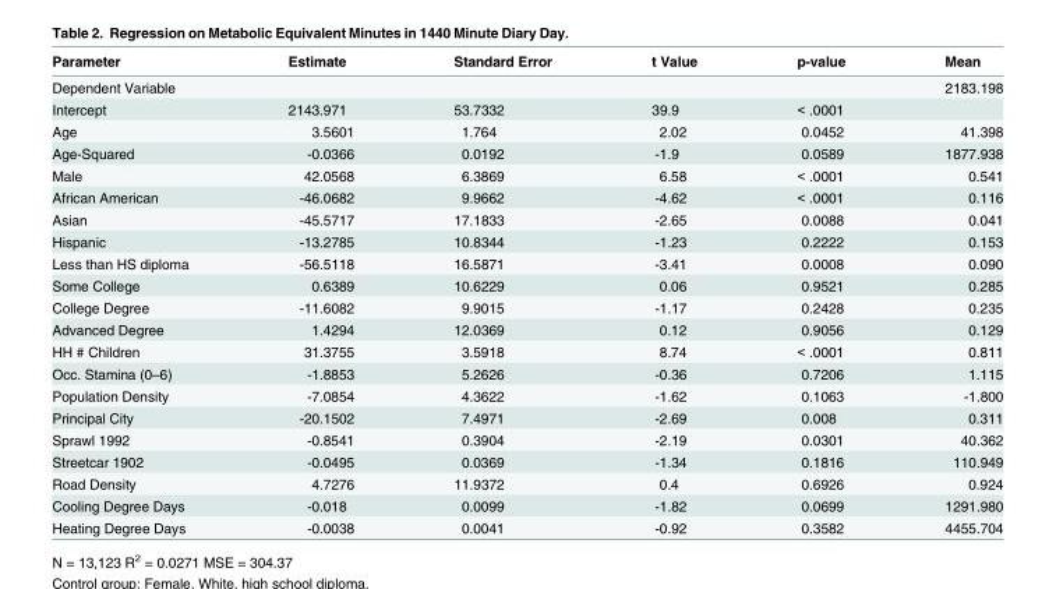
<table><thead><tr><td>Parameter</td><td>Estimate</td><td>Standard Error</td><td>t Value</td><td>p-value</td><td>Mean</td></tr></thead><tbody><tr><td>Dependent Variable</td><td></td><td></td><td></td><td></td><td>2183.198</td></tr><tr><td>Intercept</td><td>2143.971</td><td>53.7332</td><td>39.9</td><td>&lt; .0001</td><td></td></tr><tr><td>Age</td><td>3.5601</td><td>1.764</td><td>2.02</td><td>0.0452</td><td>41.398</td></tr><tr><td>Age-Squared</td><td>-0.0366</td><td>0.0192</td><td>-1.9</td><td>0.0589</td><td>1877.938</td></tr><tr><td>Male</td><td>42.0568</td><td>6.3869</td><td>6.58</td><td>&lt; .0001</td><td>0.541</td></tr><tr><td>African American</td><td>-46.0682</td><td>9.9662</td><td>-4.62</td><td>&lt; .0001</td><td>0.116</td></tr><tr><td>Asian</td><td>-45.5717</td><td>17.1833</td><td>-2.65</td><td>0.0088</td><td>0.041</td></tr><tr><td>Hispanic</td><td>-13.2785</td><td>10.8344</td><td>-1.23</td><td>0.2222</td><td>0.153</td></tr><tr><td>Less than HS diploma</td><td>-56.5118</td><td>16.5871</td><td>-3.41</td><td>0.0008</td><td>0.090</td></tr><tr><td>Some College</td><td>0.6389</td><td>10.6229</td><td>0.06</td><td>0.9521</td><td>0.285</td></tr><tr><td>College Degree</td><td>-11.6082</td><td>9.9015</td><td>-1.17</td><td>0.2428</td><td>0.235</td></tr><tr><td>Advanced Degree</td><td>1.4294</td><td>12.0369</td><td>0.12</td><td>0.9056</td><td>0.129</td></tr><tr><td>HH # Children</td><td>31.3755</td><td>3.5918</td><td>8.74</td><td>&lt; .0001</td><td>0.811</td></tr><tr><td>Occ. Stamina (0–6)</td><td>-1.8853</td><td>5.2626</td><td>-0.36</td><td>0.7206</td><td>1.115</td></tr><tr><td>Population Density</td><td>-7.0854</td><td>4.3622</td><td>-1.62</td><td>0.1063</td><td>-1.800</td></tr><tr><td>Principal City</td><td>-20.1502</td><td>7.4971</td><td>-2.69</td><td>0.008</td><td>0.311</td></tr><tr><td>Sprawl 1992</td><td>-0.8541</td><td>0.3904</td><td>-2.19</td><td>0.0301</td><td>40.362</td></tr><tr><td>Streetcar 1902</td><td>-0.0495</td><td>0.0369</td><td>-1.34</td><td>0.1816</td><td>110.949</td></tr><tr><td>Road Density</td><td>4.7276</td><td>11.9372</td><td>0.4</td><td>0.6926</td><td>0.924</td></tr><tr><td>Cooling Degree Days</td><td>-0.018</td><td>0.0099</td><td>-1.82</td><td>0.0699</td><td>1291.980</td></tr><tr><td>Heating Degree Days</td><td>-0.0038</td><td>0.0041</td><td>-0.92</td><td>0.3582</td><td>4455.704</td></tr></tbody></table>